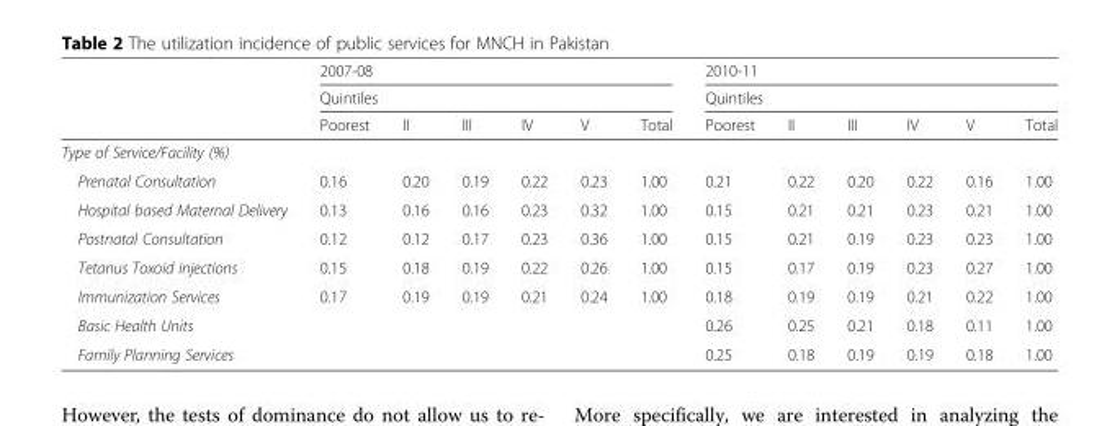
<table><thead><tr><td rowspan="3"></td><td rowspan="2" colspan="6">2007-08 Quintiles</td><td rowspan="2" colspan="6">2010-11 Quintiles</td></tr><tr></tr><tr><td>Poorest</td><td>II</td><td>III</td><td>IV</td><td>V</td><td>Total</td><td>Poorest</td><td>II</td><td>III</td><td>IV</td><td>V</td><td>Total</td></tr></thead><tbody><tr><td colspan="13">Type of Service/Facility (%)</td></tr><tr><td>Prenatal Consultation</td><td>0.16</td><td>0.20</td><td>0.19</td><td>0.22</td><td>0.23</td><td>1.00</td><td>0.21</td><td>0.22</td><td>0.20</td><td>0.22</td><td>0.16</td><td>1.00</td></tr><tr><td>Hospital based Maternal Delivery</td><td>0.13</td><td>0.16</td><td>0.16</td><td>0.23</td><td>0.32</td><td>1.00</td><td>0.15</td><td>0.21</td><td>0.21</td><td>0.23</td><td>0.21</td><td>1.00</td></tr><tr><td>Postnatal Consultation</td><td>0.12</td><td>0.12</td><td>0.17</td><td>0.23</td><td>0.36</td><td>1.00</td><td>0.15</td><td>0.21</td><td>0.19</td><td>0.23</td><td>0.23</td><td>1.00</td></tr><tr><td>Tetanus Toxoid injections</td><td>0.15</td><td>0.18</td><td>0.19</td><td>0.22</td><td>0.26</td><td>1.00</td><td>0.15</td><td>0.17</td><td>0.19</td><td>0.23</td><td>0.27</td><td>1.00</td></tr><tr><td>Immunization Services</td><td>0.17</td><td>0.19</td><td>0.19</td><td>0.21</td><td>0.24</td><td>1.00</td><td>0.18</td><td>0.19</td><td>0.19</td><td>0.21</td><td>0.22</td><td>1.00</td></tr><tr><td>Basic Health Units</td><td></td><td></td><td></td><td></td><td></td><td></td><td>0.26</td><td>0.25</td><td>0.21</td><td>0.18</td><td>0.11</td><td>1.00</td></tr><tr><td>Family Planning Services</td><td></td><td></td><td></td><td></td><td></td><td></td><td>0.25</td><td>0.18</td><td>0.19</td><td>0.19</td><td>0.18</td><td>1.00</td></tr></tbody></table>